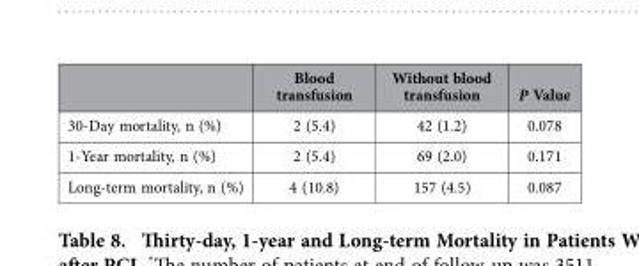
<table><thead><tr><td></td><td>Blood transfusion</td><td>Without blood transfusion</td><td>P Value</td></tr></thead><tbody><tr><td>30-Day mortality, n (%)</td><td>2 (5.4)</td><td>42 (1.2)</td><td>0.078</td></tr><tr><td>1-Year mortality, n (%)</td><td>2 (5.4)</td><td>69 (2.0)</td><td>0.171</td></tr><tr><td>Long-term mortality, n (%)</td><td>4 (10.8)</td><td>157 (4.5)</td><td>0.087</td></tr></tbody></table>